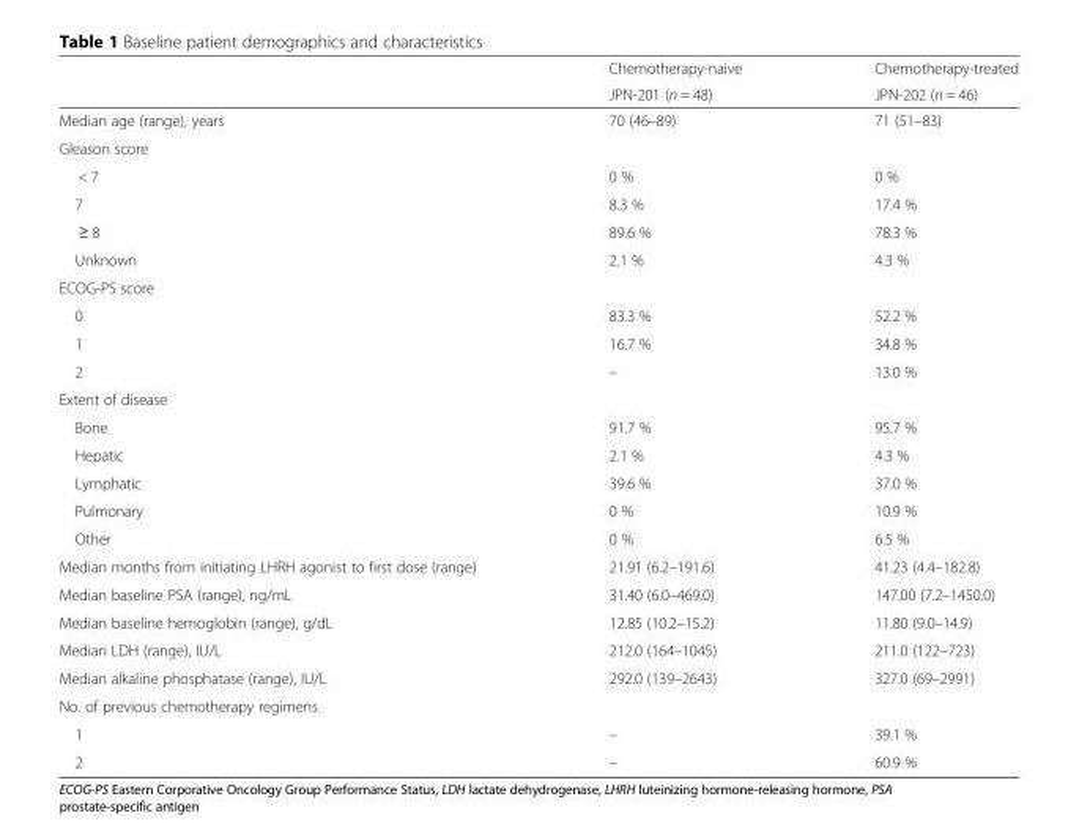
<table><thead><tr><td rowspan="2"></td><td rowspan="2">Chemotherapy-naive JPN-201 (n = 48)</td><td rowspan="2">Chemotherapy-treated JPN-202 (n = 46)</td></tr><tr></tr></thead><tbody><tr><td>Median age (range), years</td><td>70 (46–89)</td><td>71 (51–83)</td></tr><tr><td colspan="3">Gleason score</td></tr><tr><td>&lt; 7</td><td>0 %</td><td>0 %</td></tr><tr><td>7</td><td>8.3 %</td><td>17.4 %</td></tr><tr><td>≥ 8</td><td>89.6 %</td><td>78.3 %</td></tr><tr><td>Unknown</td><td>2.1 %</td><td>4.3 %</td></tr><tr><td colspan="3">ECOG-PS score</td></tr><tr><td>0</td><td>83.3 %</td><td>52.2 %</td></tr><tr><td>1</td><td>16.7 %</td><td>34.8 %</td></tr><tr><td>2</td><td>–</td><td>13.0 %</td></tr><tr><td colspan="3">Extent of disease</td></tr><tr><td>Bone</td><td>91.7 %</td><td>95.7 %</td></tr><tr><td>Hepatic</td><td>2.1 %</td><td>4.3 %</td></tr><tr><td>Lymphatic</td><td>39.6 %</td><td>37.0 %</td></tr><tr><td>Pulmonary</td><td>0 %</td><td>10.9 %</td></tr><tr><td>Other</td><td>0 %</td><td>6.5 %</td></tr><tr><td>Median months from initiating LHRH agonist to first dose (range)</td><td>21.91 (6.2–191.6)</td><td>41.23 (4.4–182.8)</td></tr><tr><td>Median baseline PSA (range), ng/mL</td><td>31.40 (6.0–469.0)</td><td>147.00 (7.2–1450.0)</td></tr><tr><td>Median baseline hemoglobin (range), g/dL</td><td>12.85 (10.2–15.2)</td><td>11.80 (9.0–14.9)</td></tr><tr><td>Median LDH (range), IU/L</td><td>212.0 (164–1045)</td><td>211.0 (122–723)</td></tr><tr><td>Median alkaline phosphatase (range), IU/L</td><td>292.0 (139–2643)</td><td>327.0 (69–2991)</td></tr><tr><td colspan="3">No. of previous chemotherapy regimens</td></tr><tr><td>1</td><td>–</td><td>39.1 %</td></tr><tr><td>2</td><td>–</td><td>60.9 %</td></tr></tbody></table>